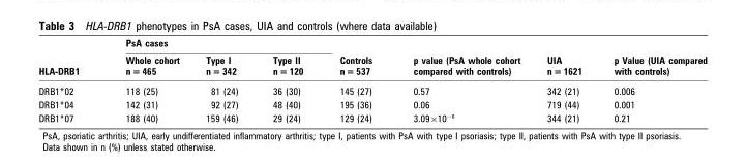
<table><thead><tr><td rowspan="2">HLA-DRB1</td><td colspan="3">PsA cases</td><td rowspan="2">Controls n = 537</td><td rowspan="2">p value (PsA whole cohort compared with controls)</td><td rowspan="2">UIA n = 1621</td><td rowspan="2">p Value (UIA compared with controls)</td></tr><tr><td>Whole cohort n = 465</td><td>Type I n = 342</td><td>Type II n = 120</td></tr></thead><tbody><tr><td>DRB1*02</td><td>118 (25)</td><td>81 (24)</td><td>36 (30)</td><td>145 (27)</td><td>0.57</td><td>342 (21)</td><td>0.006</td></tr><tr><td>DRB1*04</td><td>142 (31)</td><td>92 (27)</td><td>48 (40)</td><td>195 (36)</td><td>0.06</td><td>719 (44)</td><td>0.001</td></tr><tr><td>DRB1*07</td><td>188 (40)</td><td>159 (46)</td><td>29 (24)</td><td>129 (24)</td><td>3.09×10<sup>−8</sup></td><td>344 (21)</td><td>0.21</td></tr></tbody></table>